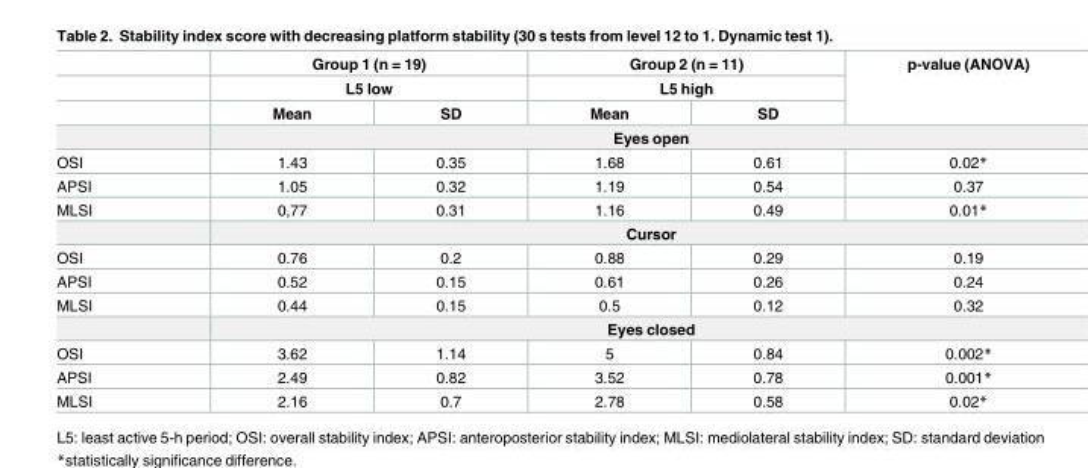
<table><thead><tr><td rowspan="3"></td><td rowspan="2" colspan="2">Group 1 (n = 19) L5 low</td><td rowspan="2" colspan="2">Group 2 (n = 11) L5 high</td><td rowspan="3">p-value (ANOVA)</td></tr><tr></tr><tr><td>Mean</td><td>SD</td><td>Mean</td><td>SD</td></tr></thead><tbody><tr><td></td><td colspan="5">Eyes open</td></tr><tr><td>OSI</td><td>1.43</td><td>0.35</td><td>1.68</td><td>0.61</td><td>0.02*</td></tr><tr><td>APSI</td><td>1.05</td><td>0.32</td><td>1.19</td><td>0.54</td><td>0.37</td></tr><tr><td rowspan="2">MLSI</td><td>0,77</td><td>0.31</td><td>1.16</td><td>0.49</td><td>0.01*</td></tr><tr><td colspan="5">Cursor</td></tr><tr><td>OSI</td><td>0.76</td><td>0.2</td><td>0.88</td><td>0.29</td><td>0.19</td></tr><tr><td>APSI</td><td>0.52</td><td>0.15</td><td>0.61</td><td>0.26</td><td>0.24</td></tr><tr><td rowspan="2">MLSI</td><td>0.44</td><td>0.15</td><td>0.5</td><td>0.12</td><td>0.32</td></tr><tr><td colspan="5">Eyes closed</td></tr><tr><td>OSI</td><td>3.62</td><td>1.14</td><td>5</td><td>0.84</td><td>0.002*</td></tr><tr><td>APSI</td><td>2.49</td><td>0.82</td><td>3.52</td><td>0.78</td><td>0.001*</td></tr><tr><td>MLSI</td><td>2.16</td><td>0.7</td><td>2.78</td><td>0.58</td><td>0.02*</td></tr></tbody></table>